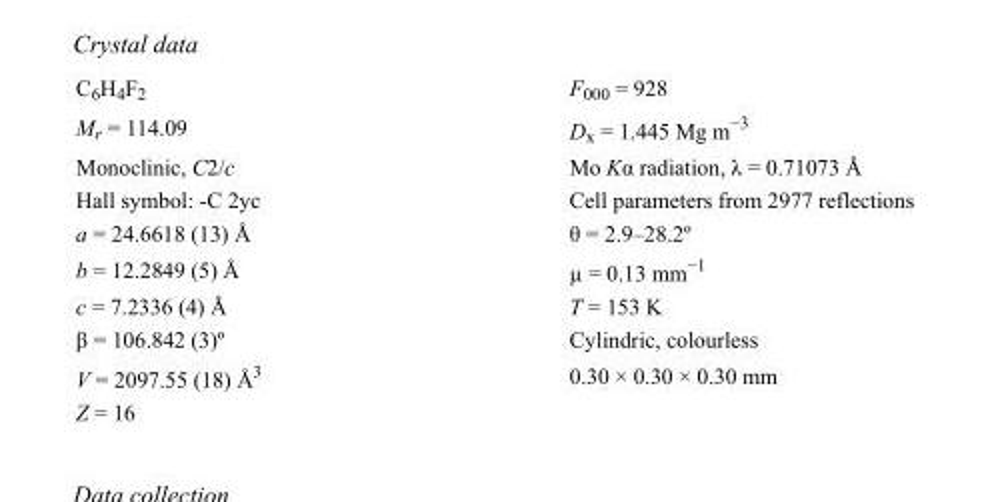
<table><tbody><tr><td>C<sub>6</sub>H<sub>4</sub>F<sub>2</sub></td><td>F000 = 928</td></tr><tr><td>M<sub>r</sub> = 114.09</td><td>D<sub>x</sub> = 1.445 Mg m<sup>−3</sup></td></tr><tr><td>Monoclinic, C2/c</td><td>Mo Kα radiation, λ = 0.71073 Å</td></tr><tr><td>Hall symbol: -C 2yc</td><td>Cell parameters from 2977 reflections</td></tr><tr><td>a = 24.6618 (13) Å</td><td>θ = 2.9–28.2º</td></tr><tr><td>b = 12.2849 (5) Å</td><td>µ = 0.13 mm<sup>−1</sup></td></tr><tr><td>c = 7.2336 (4) Å</td><td>T = 153 K</td></tr><tr><td>β = 106.842 (3)º</td><td>Cylindric, colourless</td></tr><tr><td>V = 2097.55 (18) Å<sup>3</sup></td><td>0.30 × 0.30 × 0.30 mm</td></tr><tr><td>Z = 16</td><td></td></tr></tbody></table>